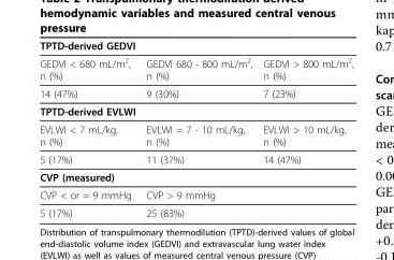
<table><thead><tr><td>TPTD-derived GEDVI</td><td></td><td></td></tr></thead><tbody><tr><td>GEDVI &lt; 680 mL/m<sup>2</sup>, n (%)</td><td>GEDVI 680 - 800 mL/m<sup>2</sup>, n (%)</td><td>GEDVI &gt; 800 mL/m<sup>2</sup>, n (%)</td></tr><tr><td>14 (47%)</td><td>9 (30%)</td><td>7 (23%)</td></tr><tr><td colspan="3">TPTD-derived EVLWI</td></tr><tr><td>EVLWI &lt; 7 mL/kg, n (%)</td><td>EVLWI = 7 - 10 mL/kg, n (%)</td><td>EVLWI &gt; 10 mL/kg, n (%)</td></tr><tr><td>5 (17%)</td><td>11 (37%)</td><td>14 (47%)</td></tr><tr><td colspan="3">CVP (measured)</td></tr><tr><td>CVP &lt; or = 9 mmHg</td><td>CVP &gt; 9 mmHg</td><td></td></tr><tr><td>5 (17%)</td><td>25 (83%)</td><td></td></tr></tbody></table>